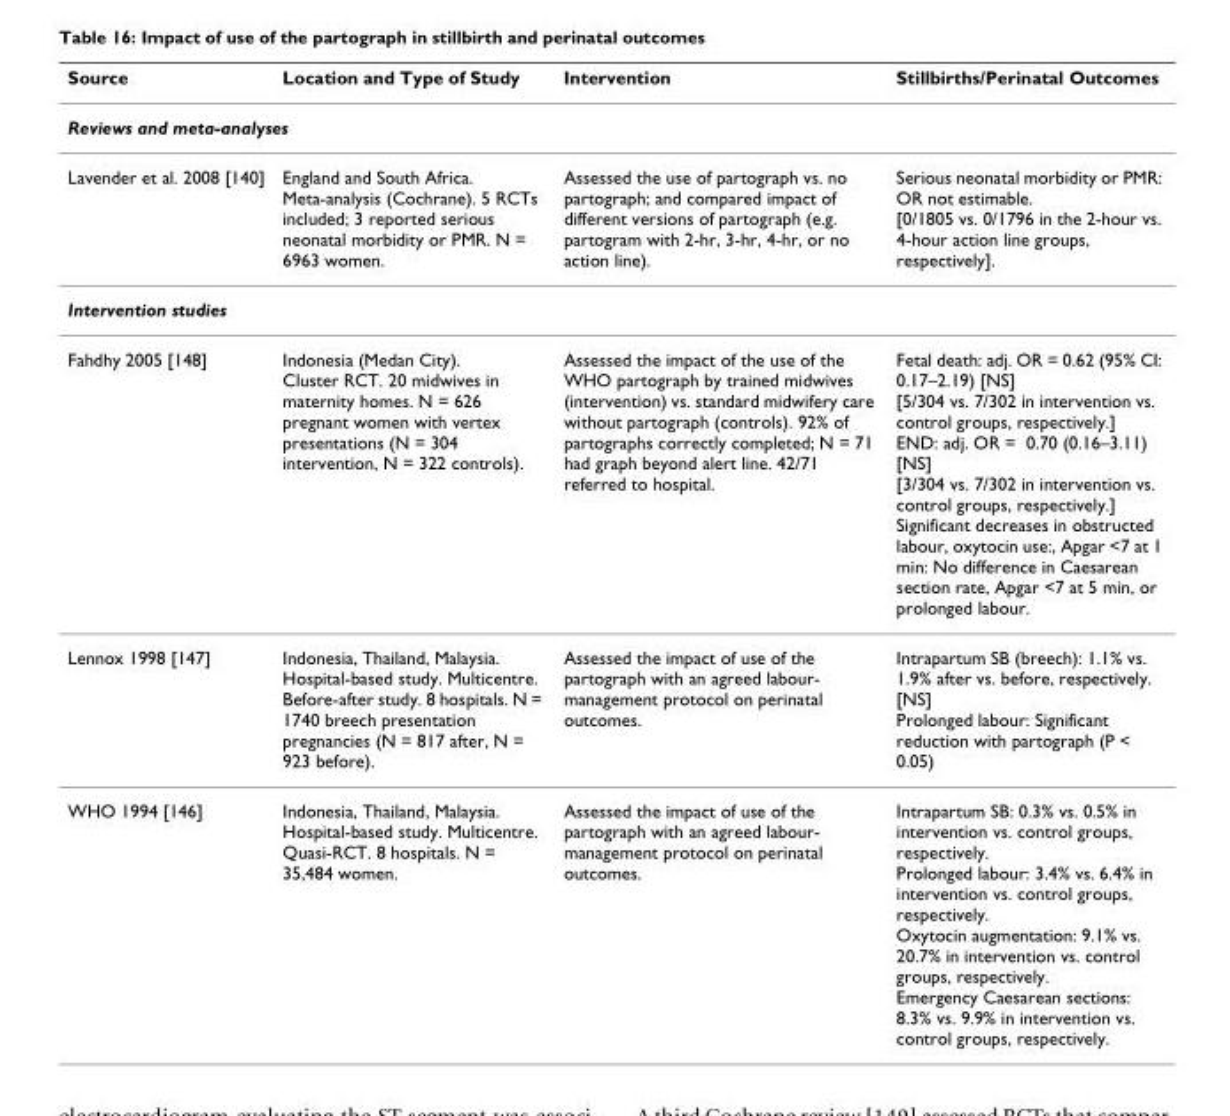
<table><thead><tr><td>Source</td><td>Location and Type of Study</td><td>Intervention</td><td>Stillbirths/Perinatal Outcomes</td></tr></thead><tbody><tr><td colspan="4">Reviews and meta-analyses</td></tr><tr><td>Lavender et al. 2008 [140]</td><td>England and South Africa. Meta-analysis (Cochrane). 5 RCTs included; 3 reported serious neonatal morbidity or PMR. N = 6963 women.</td><td>Assessed the use of partograph vs. no partograph; and compared impact of different versions of partograph (e.g. partogram with 2-hr, 3-hr, 4-hr, or no action line).</td><td>Serious neonatal morbidity or PMR: OR not estimable. [0/1805 vs. 0/1796 in the 2-hour vs. 4-hour action line groups, respectively].</td></tr><tr><td colspan="4">Intervention studies</td></tr><tr><td>Fahdhy 2005 [148]</td><td>Indonesia (Medan City). Cluster RCT. 20 midwives in maternity homes. N = 626 pregnant women with vertex presentations (N = 304 intervention, N = 322 controls).</td><td>Assessed the impact of the use of the WHO partograph by trained midwives (intervention) vs. standard midwifery care without partograph (controls). 92% of partographs correctly completed; N = 71 had graph beyond alert line. 42/71 referred to hospital.</td><td>Fetal death: adj. OR = 0.62 (95% CI: 0.17–2.19) [NS] [5/304 vs. 7/302 in intervention vs. control groups, respectively.] END: adj. OR = 0.70 (0.16–3.11) [NS] [3/304 vs. 7/302 in intervention vs. control groups, respectively.] Significant decreases in obstructed labour, oxytocin use:, Apgar &lt;7 at 1 min: No difference in Caesarean section rate, Apgar &lt;7 at 5 min, or prolonged labour.</td></tr><tr><td>Lennox 1998 [147]</td><td>Indonesia, Thailand, Malaysia. Hospital-based study. Multicentre. Before-after study. 8 hospitals. N = 1740 breech presentation pregnancies (N = 817 after, N = 923 before).</td><td>Assessed the impact of use of the partograph with an agreed labour- management protocol on perinatal outcomes.</td><td>Intrapartum SB (breech): 1.1% vs. 1.9% after vs. before, respectively. [NS] Prolonged labour: Significant reduction with partograph (P &lt; 0.05)</td></tr><tr><td>WHO 1994 [146]</td><td>Indonesia, Thailand, Malaysia. Hospital-based study. Multicentre. Quasi-RCT. 8 hospitals. N = 35,484 women.</td><td>Assessed the impact of use of the partograph with an agreed labour- management protocol on perinatal outcomes.</td><td>Intrapartum SB: 0.3% vs. 0.5% in intervention vs. control groups, respectively. Prolonged labour: 3.4% vs. 6.4% in intervention vs. control groups, respectively. Oxytocin augmentation: 9.1% vs. 20.7% in intervention vs. control groups, respectively. Emergency Caesarean sections: 8.3% vs. 9.9% in intervention vs. control groups, respectively.</td></tr></tbody></table>